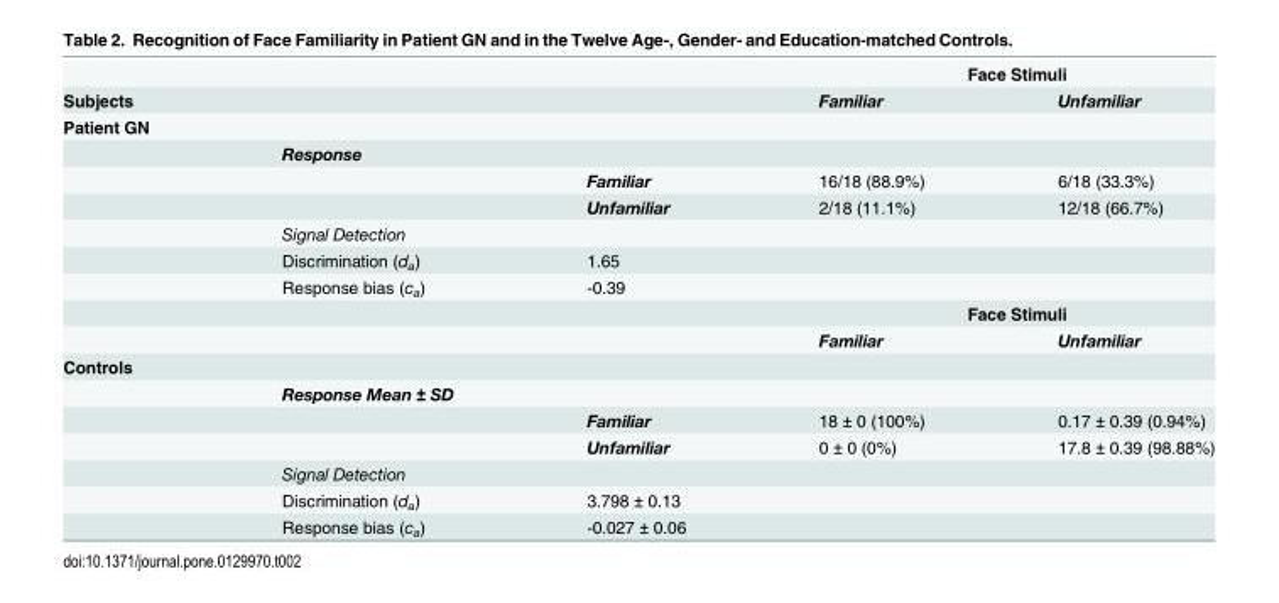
<table><thead><tr><td rowspan="2">Subjects</td><td rowspan="2"></td><td rowspan="2"></td><td colspan="2">Face Stimuli</td></tr><tr><td>Familiar</td><td>Unfamiliar</td></tr></thead><tbody><tr><td colspan="5">Patient GN</td></tr><tr><td></td><td>Response</td><td></td><td></td><td></td></tr><tr><td></td><td></td><td>Familiar</td><td>16/18 (88.9%)</td><td>6/18 (33.3%)</td></tr><tr><td></td><td></td><td>Unfamiliar</td><td>2/18 (11.1%)</td><td>12/18 (66.7%)</td></tr><tr><td></td><td>Signal Detection</td><td></td><td></td><td></td></tr><tr><td></td><td>Discrimination (d<sub>a</sub>)</td><td>1.65</td><td></td><td></td></tr><tr><td></td><td>Response bias (c<sub>a</sub>)</td><td>-0.39</td><td></td><td></td></tr><tr><td></td><td></td><td></td><td colspan="2">Face Stimuli</td></tr><tr><td></td><td></td><td></td><td>Familiar</td><td>Unfamiliar</td></tr><tr><td colspan="5">Controls</td></tr><tr><td></td><td>Response Mean ± SD</td><td></td><td></td><td></td></tr><tr><td></td><td></td><td>Familiar</td><td>18 ± 0 (100%)</td><td>0.17 ± 0.39 (0.94%)</td></tr><tr><td></td><td></td><td>Unfamiliar</td><td>0 ± 0 (0%)</td><td>17.8 ± 0.39 (98.88%)</td></tr><tr><td></td><td>Signal Detection</td><td></td><td></td><td></td></tr><tr><td></td><td>Discrimination (d<sub>a</sub>)</td><td>3.798 ± 0.13</td><td></td><td></td></tr><tr><td></td><td>Response bias (c<sub>a</sub>)</td><td>-0.027 ± 0.06</td><td></td><td></td></tr></tbody></table>